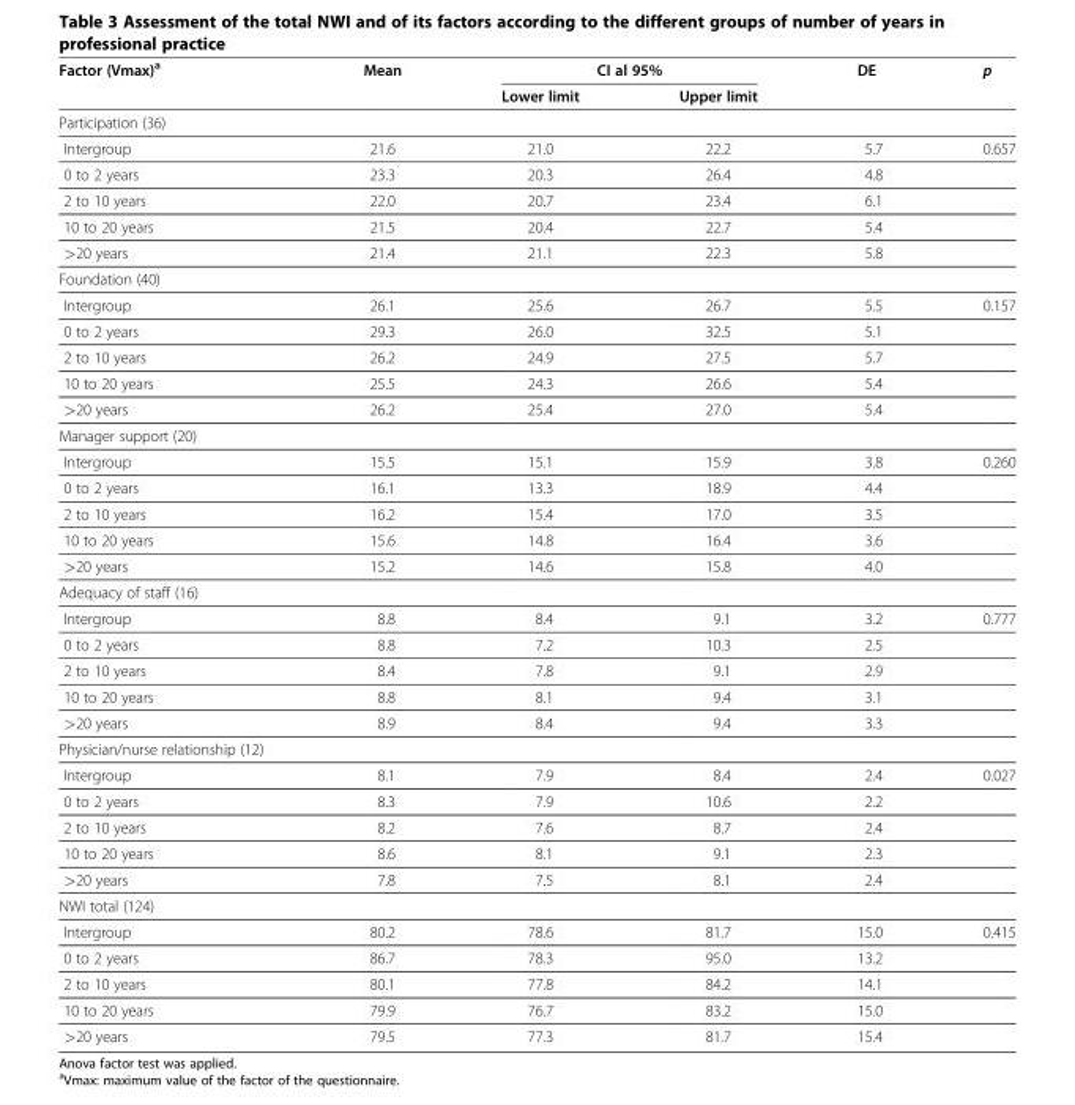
<table><thead><tr><td rowspan="2">Factor (Vmax)<sup>a</sup></td><td rowspan="2">Mean</td><td colspan="2">CI al 95%</td><td rowspan="2">DE</td><td rowspan="2">p</td></tr><tr><td>Lower limit</td><td>Upper limit</td></tr></thead><tbody><tr><td colspan="6">Participation (36)</td></tr><tr><td>Intergroup</td><td>21.6</td><td>21.0</td><td>22.2</td><td>5.7</td><td>0.657</td></tr><tr><td>0 to 2 years</td><td>23.3</td><td>20.3</td><td>26.4</td><td>4.8</td><td></td></tr><tr><td>2 to 10 years</td><td>22.0</td><td>20.7</td><td>23.4</td><td>6.1</td><td></td></tr><tr><td>10 to 20 years</td><td>21.5</td><td>20.4</td><td>22.7</td><td>5.4</td><td></td></tr><tr><td>&gt;20 years</td><td>21.4</td><td>21.1</td><td>22.3</td><td>5.8</td><td></td></tr><tr><td colspan="6">Foundation (40)</td></tr><tr><td>Intergroup</td><td>26.1</td><td>25.6</td><td>26.7</td><td>5.5</td><td>0.157</td></tr><tr><td>0 to 2 years</td><td>29.3</td><td>26.0</td><td>32.5</td><td>5.1</td><td></td></tr><tr><td>2 to 10 years</td><td>26.2</td><td>24.9</td><td>27.5</td><td>5.7</td><td></td></tr><tr><td>10 to 20 years</td><td>25.5</td><td>24.3</td><td>26.6</td><td>5.4</td><td></td></tr><tr><td>&gt;20 years</td><td>26.2</td><td>25.4</td><td>27.0</td><td>5.4</td><td></td></tr><tr><td colspan="6">Manager support (20)</td></tr><tr><td>Intergroup</td><td>15.5</td><td>15.1</td><td>15.9</td><td>3.8</td><td>0.260</td></tr><tr><td>0 to 2 years</td><td>16.1</td><td>13.3</td><td>18.9</td><td>4.4</td><td></td></tr><tr><td>2 to 10 years</td><td>16.2</td><td>15.4</td><td>17.0</td><td>3.5</td><td></td></tr><tr><td>10 to 20 years</td><td>15.6</td><td>14.8</td><td>16.4</td><td>3.6</td><td></td></tr><tr><td>&gt;20 years</td><td>15.2</td><td>14.6</td><td>15.8</td><td>4.0</td><td></td></tr><tr><td colspan="6">Adequacy of staff (16)</td></tr><tr><td>Intergroup</td><td>8.8</td><td>8.4</td><td>9.1</td><td>3.2</td><td>0.777</td></tr><tr><td>0 to 2 years</td><td>8.8</td><td>7.2</td><td>10.3</td><td>2.5</td><td></td></tr><tr><td>2 to 10 years</td><td>8.4</td><td>7.8</td><td>9.1</td><td>2.9</td><td></td></tr><tr><td>10 to 20 years</td><td>8.8</td><td>8.1</td><td>9.4</td><td>3.1</td><td></td></tr><tr><td>&gt;20 years</td><td>8.9</td><td>8.4</td><td>9.4</td><td>3.3</td><td></td></tr><tr><td colspan="6">Physician/nurse relationship (12)</td></tr><tr><td>Intergroup</td><td>8.1</td><td>7.9</td><td>8.4</td><td>2.4</td><td>0.027</td></tr><tr><td>0 to 2 years</td><td>8.3</td><td>7.9</td><td>10.6</td><td>2.2</td><td></td></tr><tr><td>2 to 10 years</td><td>8.2</td><td>7.6</td><td>8.7</td><td>2.4</td><td></td></tr><tr><td>10 to 20 years</td><td>8.6</td><td>8.1</td><td>9.1</td><td>2.3</td><td></td></tr><tr><td>&gt;20 years</td><td>7.8</td><td>7.5</td><td>8.1</td><td>2.4</td><td></td></tr><tr><td colspan="6">NWI total (124)</td></tr><tr><td>Intergroup</td><td>80.2</td><td>78.6</td><td>81.7</td><td>15.0</td><td>0.415</td></tr><tr><td>0 to 2 years</td><td>86.7</td><td>78.3</td><td>95.0</td><td>13.2</td><td></td></tr><tr><td>2 to 10 years</td><td>80.1</td><td>77.8</td><td>84.2</td><td>14.1</td><td></td></tr><tr><td>10 to 20 years</td><td>79.9</td><td>76.7</td><td>83.2</td><td>15.0</td><td></td></tr><tr><td>&gt;20 years</td><td>79.5</td><td>77.3</td><td>81.7</td><td>15.4</td><td></td></tr></tbody></table>